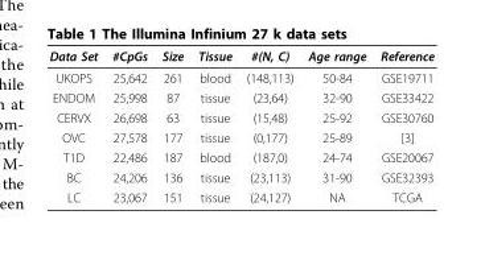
<table><thead><tr><td>Data Set</td><td>#CpGs</td><td>Size</td><td>Tissue</td><td>#(N, C)</td><td>Age range</td><td>Reference</td></tr></thead><tbody><tr><td>UKOPS</td><td>25,642</td><td>261</td><td>blood</td><td>(148,113)</td><td>50-84</td><td>GSE19711</td></tr><tr><td>ENDOM</td><td>25,998</td><td>87</td><td>tissue</td><td>(23,64)</td><td>32-90</td><td>GSE33422</td></tr><tr><td>CERVX</td><td>26,698</td><td>63</td><td>tissue</td><td>(15,48)</td><td>25-92</td><td>GSE30760</td></tr><tr><td>OVC</td><td>27,578</td><td>177</td><td>tissue</td><td>(0,177)</td><td>25-89</td><td>[3]</td></tr><tr><td>T1D</td><td>22,486</td><td>187</td><td>blood</td><td>(187,0)</td><td>24-74</td><td>GSE20067</td></tr><tr><td>BC</td><td>24,206</td><td>136</td><td>tissue</td><td>(23,113)</td><td>31-90</td><td>GSE32393</td></tr><tr><td>LC</td><td>23,067</td><td>151</td><td>tissue</td><td>(24,127)</td><td>NA</td><td>TCGA</td></tr></tbody></table>